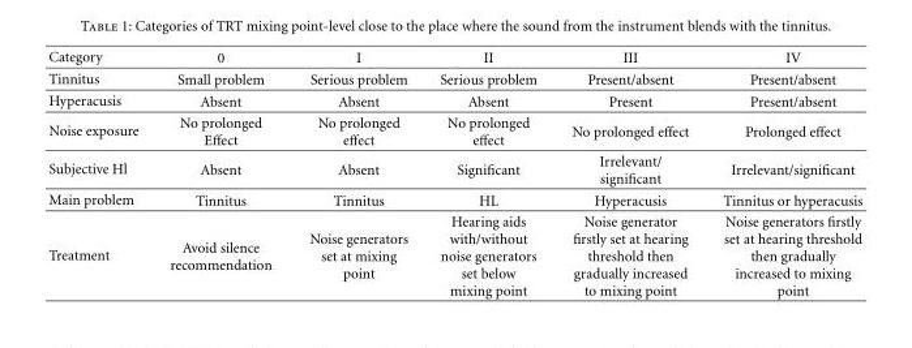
<table><thead><tr><td>Category</td><td>0</td><td>I</td><td>II</td><td>III</td><td>IV</td></tr></thead><tbody><tr><td>Tinnitus</td><td>Small problem</td><td>Serious problem</td><td>Serious problem</td><td>Present/absent</td><td>Present/absent</td></tr><tr><td>Hyperacusis</td><td>Absent</td><td>Absent</td><td>Absent</td><td>Present</td><td>Present/absent</td></tr><tr><td>Noise exposure</td><td>No prolonged Effect</td><td>No prolonged effect</td><td>No prolonged effect</td><td>No prolonged effect</td><td>Prolonged effect</td></tr><tr><td>Subjective Hl</td><td>Absent</td><td>Absent</td><td>Significant</td><td>Irrelevant/ significant</td><td>Irrelevant/significant</td></tr><tr><td>Main problem</td><td>Tinnitus</td><td>Tinnitus</td><td>HL</td><td>Hyperacusis</td><td>Tinnitus or hyperacusis</td></tr><tr><td>Treatment</td><td>Avoid silence recommendation</td><td>Noise generators set at mixing point</td><td>Hearing aids with/without noise generators set below mixing point</td><td>Noise generator firstly set at hearing threshold then gradually increased to mixing point</td><td>Noise generators firstly set at hearing threshold then gradually increased to mixing point</td></tr></tbody></table>